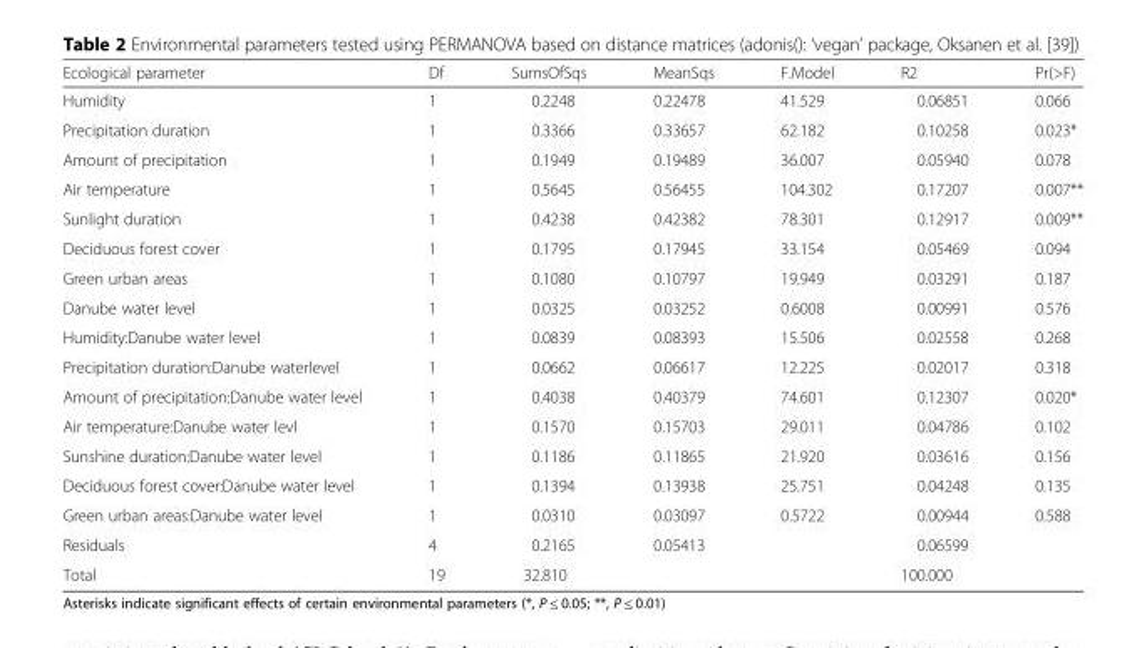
<table><thead><tr><td>Ecological parameter</td><td>Df</td><td>SumsOfSqs</td><td>MeanSqs</td><td>F.Model</td><td>R2</td><td>Pr(&gt;F)</td></tr></thead><tbody><tr><td>Humidity</td><td>1</td><td>0.2248</td><td>0.22478</td><td>41.529</td><td>0.06851</td><td>0.066</td></tr><tr><td>Precipitation duration</td><td>1</td><td>0.3366</td><td>0.33657</td><td>62.182</td><td>0.10258</td><td>0.023*</td></tr><tr><td>Amount of precipitation</td><td>1</td><td>0.1949</td><td>0.19489</td><td>36.007</td><td>0.05940</td><td>0.078</td></tr><tr><td>Air temperature</td><td>1</td><td>0.5645</td><td>0.56455</td><td>104.302</td><td>0.17207</td><td>0.007**</td></tr><tr><td>Sunlight duration</td><td>1</td><td>0.4238</td><td>0.42382</td><td>78.301</td><td>0.12917</td><td>0.009**</td></tr><tr><td>Deciduous forest cover</td><td>1</td><td>0.1795</td><td>0.17945</td><td>33.154</td><td>0.05469</td><td>0.094</td></tr><tr><td>Green urban areas</td><td>1</td><td>0.1080</td><td>0.10797</td><td>19.949</td><td>0.03291</td><td>0.187</td></tr><tr><td>Danube water level</td><td>1</td><td>0.0325</td><td>0.03252</td><td>0.6008</td><td>0.00991</td><td>0.576</td></tr><tr><td>Humidity:Danube water level</td><td>1</td><td>0.0839</td><td>0.08393</td><td>15.506</td><td>0.02558</td><td>0.268</td></tr><tr><td>Precipitation duration:Danube waterlevel</td><td>1</td><td>0.0662</td><td>0.06617</td><td>12.225</td><td>0.02017</td><td>0.318</td></tr><tr><td>Amount of precipitation:Danube water level</td><td>1</td><td>0.4038</td><td>0.40379</td><td>74.601</td><td>0.12307</td><td>0.020*</td></tr><tr><td>Air temperature:Danube water levl</td><td>1</td><td>0.1570</td><td>0.15703</td><td>29.011</td><td>0.04786</td><td>0.102</td></tr><tr><td>Sunshine duration:Danube water level</td><td>1</td><td>0.1186</td><td>0.11865</td><td>21.920</td><td>0.03616</td><td>0.156</td></tr><tr><td>Deciduous forest cover:Danube water level</td><td>1</td><td>0.1394</td><td>0.13938</td><td>25.751</td><td>0.04248</td><td>0.135</td></tr><tr><td>Green urban areas:Danube water level</td><td>1</td><td>0.0310</td><td>0.03097</td><td>0.5722</td><td>0.00944</td><td>0.588</td></tr><tr><td>Residuals</td><td>4</td><td>0.2165</td><td>0.05413</td><td></td><td>0.06599</td><td></td></tr><tr><td>Total</td><td>19</td><td>32.810</td><td></td><td></td><td>100.000</td><td></td></tr></tbody></table>